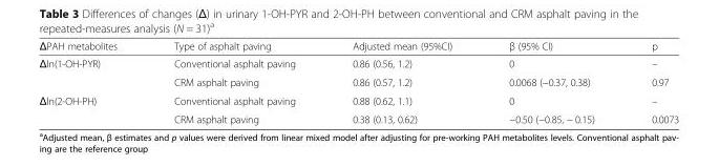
<table><thead><tr><td>ΔPAH metabolites</td><td>Type of asphalt paving</td><td>Adjusted mean (95%CI)</td><td>β (95% CI)</td><td>p</td></tr></thead><tbody><tr><td rowspan="2">Δln(1-OH-PYR)</td><td>Conventional asphalt paving</td><td>0.86 (0.56, 1.2)</td><td>0</td><td>–</td></tr><tr><td>CRM asphalt paving</td><td>0.86 (0.57, 1.2)</td><td>0.0068 (−0.37, 0.38)</td><td>0.97</td></tr><tr><td rowspan="2">Δln(2-OH-PH)</td><td>Conventional asphalt paving</td><td>0.88 (0.62, 1.1)</td><td>0</td><td>–</td></tr><tr><td>CRM asphalt paving</td><td>0.38 (0.13, 0.62)</td><td>−0.50 (−0.85, − 0.15)</td><td>0.0073</td></tr></tbody></table>